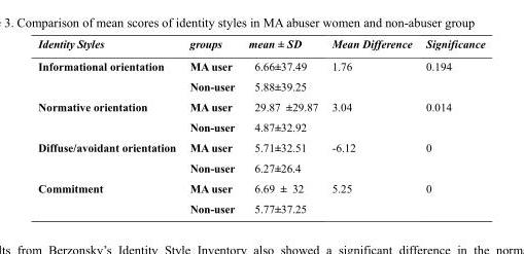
<table><thead><tr><td>Identity Styles</td><td>groups</td><td>mean ± SD</td><td>Mean Difference</td><td>Significance</td></tr></thead><tbody><tr><td rowspan="2">Informational orientation</td><td>MA user</td><td>6.66±37.49</td><td>1.76</td><td>0.194</td></tr><tr><td>Non-user</td><td>5.88±39.25</td><td></td><td></td></tr><tr><td rowspan="2">Normative orientation</td><td>MA user</td><td>29.87 ±29.87</td><td>3.04</td><td>0.014</td></tr><tr><td>Non-user</td><td>4.87±32.92</td><td></td><td></td></tr><tr><td rowspan="2">Diffuse/avoidant orientation</td><td>MA user</td><td>5.71±32.51</td><td>-6.12</td><td>0</td></tr><tr><td>Non-user</td><td>6.27±26.4</td><td></td><td></td></tr><tr><td rowspan="2">Commitment</td><td>MA user</td><td>6.69 ± 32</td><td>5.25</td><td>0</td></tr><tr><td>Non-user</td><td>5.77±37.25</td><td></td><td></td></tr></tbody></table>